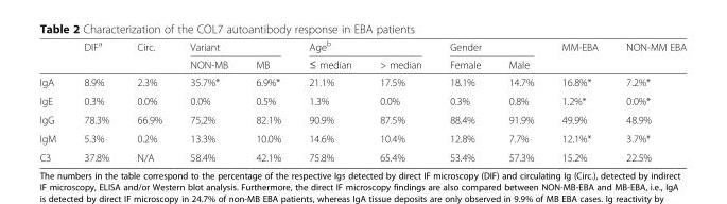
<table><thead><tr><td rowspan="2"></td><td rowspan="2">DIF<sup>a</sup></td><td rowspan="2">Circ.</td><td colspan="2">Variant</td><td colspan="2">Age<sup>b</sup></td><td colspan="2">Gender</td><td rowspan="2">MM-EBA</td><td rowspan="2">NON-MM EBA</td></tr><tr><td>NON-MB</td><td>MB</td><td>≤ median</td><td>&gt; median</td><td>Female</td><td>Male</td></tr></thead><tbody><tr><td>IgA</td><td>8.9%</td><td>2.3%</td><td>35.7%*</td><td>6.9%*</td><td>21.1%</td><td>17.5%</td><td>18.1%</td><td>14.7%</td><td>16.8%*</td><td>7.2%*</td></tr><tr><td>IgE</td><td>0.3%</td><td>0.0%</td><td>0.0%</td><td>0.5%</td><td>1.3%</td><td>0.0%</td><td>0.3%</td><td>0.8%</td><td>1.2%*</td><td>0.0%*</td></tr><tr><td>IgG</td><td>78.3%</td><td>66.9%</td><td>75,2%</td><td>82.1%</td><td>90.9%</td><td>87.5%</td><td>88.4%</td><td>91.9%</td><td>49.9%</td><td>48.9%</td></tr><tr><td>IgM</td><td>5.3%</td><td>0.2%</td><td>13.3%</td><td>10.0%</td><td>14.6%</td><td>10.4%</td><td>12.8%</td><td>7.7%</td><td>12.1%*</td><td>3.7%*</td></tr><tr><td>C3</td><td>37.8%</td><td>N/A</td><td>58.4%</td><td>42.1%</td><td>75.8%</td><td>65.4%</td><td>53.4%</td><td>57.3%</td><td>15.2%</td><td>22.5%</td></tr></tbody></table>